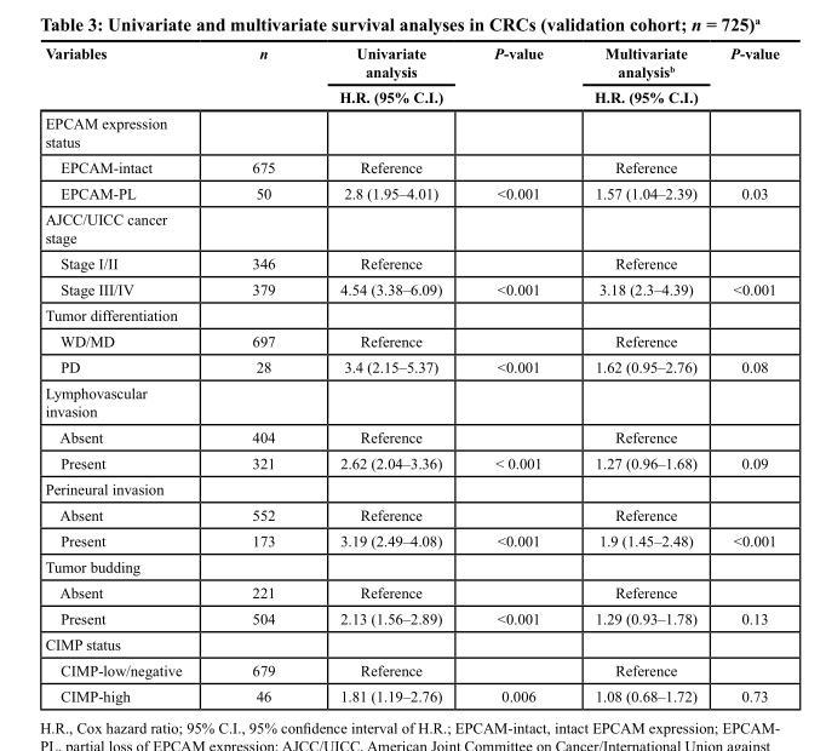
<table><thead><tr><td rowspan="2">Variables</td><td rowspan="2">n</td><td rowspan="2">Univariate analysis H.R. (95% C.I.)</td><td rowspan="2">P-value</td><td rowspan="2">Multivariate analysis<sup>b</sup> H.R. (95% C.I.)</td><td rowspan="2">P-value</td></tr><tr></tr></thead><tbody><tr><td colspan="6">EPCAM expression status</td></tr><tr><td>EPCAM-intact</td><td>675</td><td>Reference</td><td></td><td>Reference</td><td></td></tr><tr><td>EPCAM-PL</td><td>50</td><td>2.8 (1.95–4.01)</td><td>&lt;0.001</td><td>1.57 (1.04–2.39)</td><td>0.03</td></tr><tr><td colspan="6">AJCC/UICC cancer stage</td></tr><tr><td>Stage I/II</td><td>346</td><td>Reference</td><td></td><td>Reference</td><td></td></tr><tr><td>Stage III/IV</td><td>379</td><td>4.54 (3.38–6.09)</td><td>&lt;0.001</td><td>3.18 (2.3–4.39)</td><td>&lt;0.001</td></tr><tr><td colspan="6">Tumor differentiation</td></tr><tr><td>WD/MD</td><td>697</td><td>Reference</td><td></td><td>Reference</td><td></td></tr><tr><td>PD</td><td>28</td><td>3.4 (2.15–5.37)</td><td>&lt;0.001</td><td>1.62 (0.95–2.76)</td><td>0.08</td></tr><tr><td colspan="6">Lymphovascular invasion</td></tr><tr><td>Absent</td><td>404</td><td>Reference</td><td></td><td>Reference</td><td></td></tr><tr><td>Present</td><td>321</td><td>2.62 (2.04–3.36)</td><td>&lt; 0.001</td><td>1.27 (0.96–1.68)</td><td>0.09</td></tr><tr><td colspan="6">Perineural invasion</td></tr><tr><td>Absent</td><td>552</td><td>Reference</td><td></td><td>Reference</td><td></td></tr><tr><td>Present</td><td>173</td><td>3.19 (2.49–4.08)</td><td>&lt;0.001</td><td>1.9 (1.45–2.48)</td><td>&lt;0.001</td></tr><tr><td colspan="6">Tumor budding</td></tr><tr><td>Absent</td><td>221</td><td>Reference</td><td></td><td>Reference</td><td></td></tr><tr><td>Present</td><td>504</td><td>2.13 (1.56–2.89)</td><td>&lt;0.001</td><td>1.29 (0.93–1.78)</td><td>0.13</td></tr><tr><td colspan="6">CIMP status</td></tr><tr><td>CIMP-low/negative</td><td>679</td><td>Reference</td><td></td><td>Reference</td><td></td></tr><tr><td>CIMP-high</td><td>46</td><td>1.81 (1.19–2.76)</td><td>0.006</td><td>1.08 (0.68–1.72)</td><td>0.73</td></tr></tbody></table>